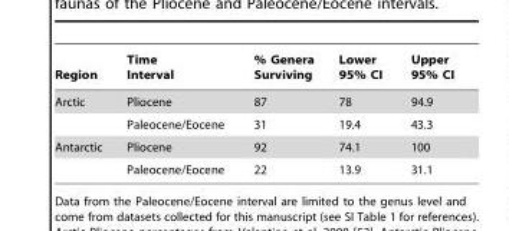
<table><thead><tr><td>Region</td><td>Time Interval</td><td>% Genera Surviving</td><td>Lower 95% CI</td><td>Upper 95% CI</td></tr></thead><tbody><tr><td rowspan="2">Arctic</td><td>Pliocene</td><td>87</td><td>78</td><td>94.9</td></tr><tr><td>Paleocene/Eocene</td><td>31</td><td>19.4</td><td>43.3</td></tr><tr><td rowspan="2">Antarctic</td><td>Pliocene</td><td>92</td><td>74.1</td><td>100</td></tr><tr><td>Paleocene/Eocene</td><td>22</td><td>13.9</td><td>31.1</td></tr></tbody></table>